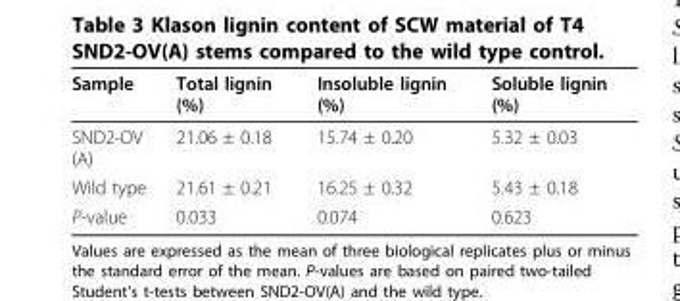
<table><thead><tr><td>Sample</td><td>Total lignin (%)</td><td>Insoluble lignin (%)</td><td>Soluble lignin (%)</td></tr></thead><tbody><tr><td>SND2-OV (A)</td><td>21.06 ± 0.18</td><td>15.74 ± 0.20</td><td>5.32 ± 0.03</td></tr><tr><td>Wild type</td><td>21.61 ± 0.21</td><td>16.25 ± 0.32</td><td>5.43 ± 0.18</td></tr><tr><td>P-value</td><td>0.033</td><td>0.074</td><td>0.623</td></tr></tbody></table>